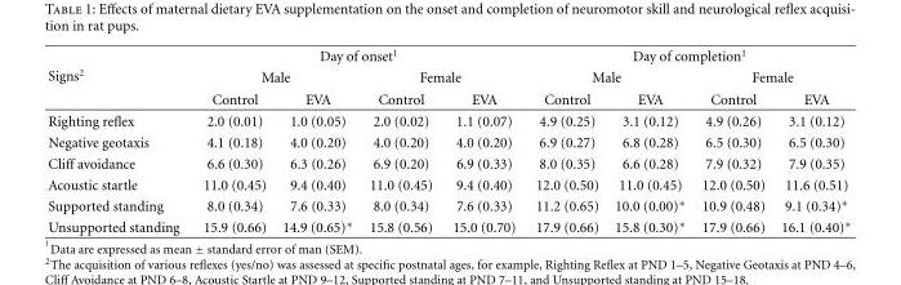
<table><thead><tr><td rowspan="3">Signs<sup>2</sup></td><td colspan="4">Day of onset<sup>1</sup></td><td colspan="4">Day of completion<sup>1</sup></td></tr><tr><td colspan="2">Male</td><td colspan="2">Female</td><td colspan="2">Male</td><td colspan="2">Female</td></tr><tr><td>Control</td><td>EVA</td><td>Control</td><td>EVA</td><td>Control</td><td>EVA</td><td>Control</td><td>EVA</td></tr></thead><tbody><tr><td>Righting reflex</td><td>2.0 (0.01)</td><td>1.0 (0.05)</td><td>2.0 (0.02)</td><td>1.1 (0.07)</td><td>4.9 (0.25)</td><td>3.1 (0.12)</td><td>4.9 (0.26)</td><td>3.1 (0.12)</td></tr><tr><td>Negative geotaxis</td><td>4.1 (0.18)</td><td>4.0 (0.20)</td><td>4.0 (0.20)</td><td>4.0 (0.20)</td><td>6.9 (0.27)</td><td>6.8 (0.28)</td><td>6.5 (0.30)</td><td>6.5 (0.30)</td></tr><tr><td>Cliff avoidance</td><td>6.6 (0.30)</td><td>6.3 (0.26)</td><td>6.9 (0.20)</td><td>6.9 (0.33)</td><td>8.0 (0.35)</td><td>6.6 (0.28)</td><td>7.9 (0.32)</td><td>7.9 (0.35)</td></tr><tr><td>Acoustic startle</td><td>11.0 (0.45)</td><td>9.4 (0.40)</td><td>11.0 (0.45)</td><td>9.4 (0.40)</td><td>12.0 (0.50)</td><td>11.0 (0.45)</td><td>12.0 (0.50)</td><td>11.6 (0.51)</td></tr><tr><td>Supported standing</td><td>8.0 (0.34)</td><td>7.6 (0.33)</td><td>8.0 (0.34)</td><td>7.6 (0.33)</td><td>11.2 (0.65)</td><td>10.0 (0.00)∗</td><td>10.9 (0.48)</td><td>9.1 (0.34)∗</td></tr><tr><td>Unsupported standing</td><td>15.9 (0.66)</td><td>14.9 (0.65)∗</td><td>15.8 (0.56)</td><td>15.0 (0.70)</td><td>17.9 (0.66)</td><td>15.8 (0.30)∗</td><td>17.9 (0.66)</td><td>16.1 (0.40)∗</td></tr></tbody></table>